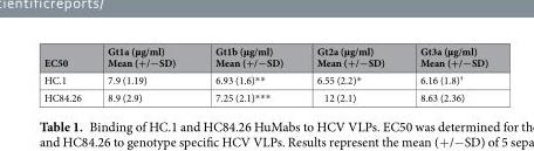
<table><thead><tr><td>EC50</td><td>Gt1a (µg/ml) Mean (+/−SD)</td><td>Gt1b (µg/ml) Mean (+/−SD)</td><td>Gt2a (µg/ml) Mean (+/−SD)</td><td>Gt3a (µg/ml) Mean (+/−SD)</td></tr></thead><tbody><tr><td>HC.1</td><td>7.9 (1.19)</td><td>6.93 (1.6)**</td><td>6.55 (2.2)*</td><td>6.16 (1.8)<sup>†</sup></td></tr><tr><td>HC84.26</td><td>8.9 (2.9)</td><td>7.25 (2.1)***</td><td>12 (2.1)</td><td>8.63 (2.36)</td></tr></tbody></table>